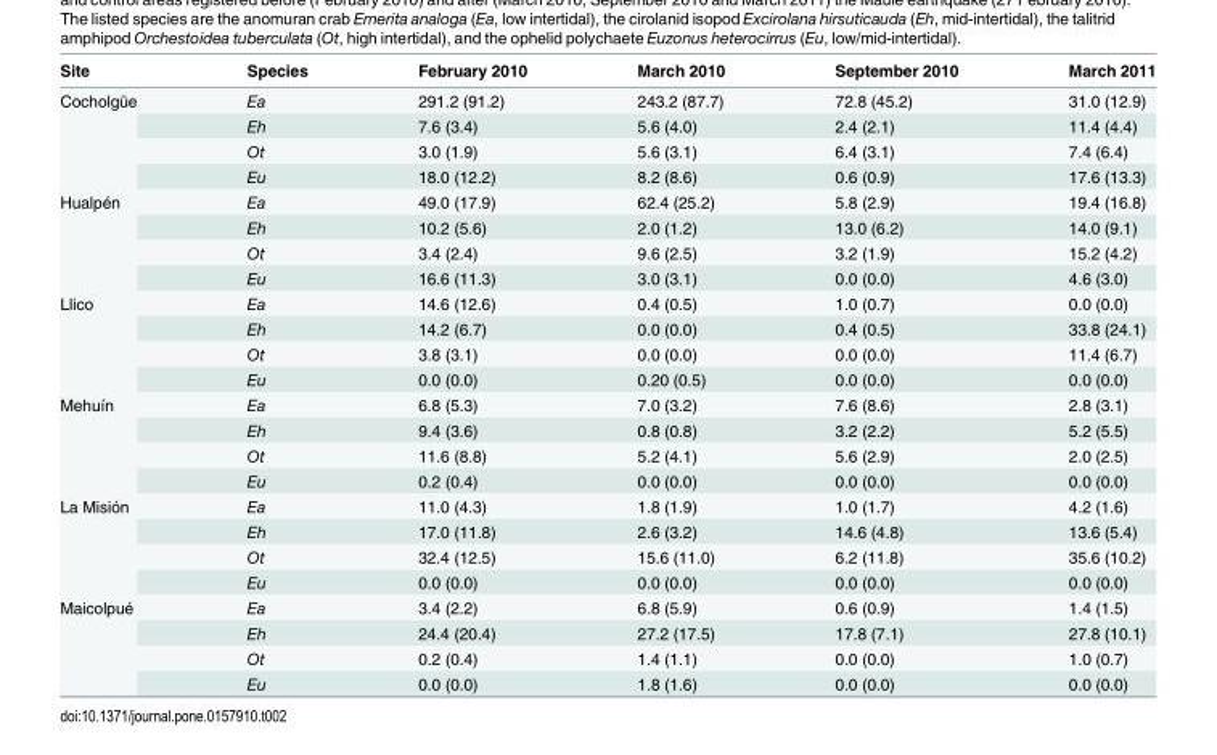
<table><thead><tr><td>Site</td><td>Species</td><td>February 2010</td><td>March 2010</td><td>September 2010</td><td>March 2011</td></tr></thead><tbody><tr><td rowspan="4">Cocholgüe</td><td>Ea</td><td>291.2 (91.2)</td><td>243.2 (87.7)</td><td>72.8 (45.2)</td><td>31.0 (12.9)</td></tr><tr><td>Eh</td><td>7.6 (3.4)</td><td>5.6 (4.0)</td><td>2.4 (2.1)</td><td>11.4 (4.4)</td></tr><tr><td>Ot</td><td>3.0 (1.9)</td><td>5.6 (3.1)</td><td>6.4 (3.1)</td><td>7.4 (6.4)</td></tr><tr><td>Eu</td><td>18.0 (12.2)</td><td>8.2 (8.6)</td><td>0.6 (0.9)</td><td>17.6 (13.3)</td></tr><tr><td rowspan="4">Hualpén</td><td>Ea</td><td>49.0 (17.9)</td><td>62.4 (25.2)</td><td>5.8 (2.9)</td><td>19.4 (16.8)</td></tr><tr><td>Eh</td><td>10.2 (5.6)</td><td>2.0 (1.2)</td><td>13.0 (6.2)</td><td>14.0 (9.1)</td></tr><tr><td>Ot</td><td>3.4 (2.4)</td><td>9.6 (2.5)</td><td>3.2 (1.9)</td><td>15.2 (4.2)</td></tr><tr><td>Eu</td><td>16.6 (11.3)</td><td>3.0 (3.1)</td><td>0.0 (0.0)</td><td>4.6 (3.0)</td></tr><tr><td rowspan="4">Llico</td><td>Ea</td><td>14.6 (12.6)</td><td>0.4 (0.5)</td><td>1.0 (0.7)</td><td>0.0 (0.0)</td></tr><tr><td>Eh</td><td>14.2 (6.7)</td><td>0.0 (0.0)</td><td>0.4 (0.5)</td><td>33.8 (24.1)</td></tr><tr><td>Ot</td><td>3.8 (3.1)</td><td>0.0 (0.0)</td><td>0.0 (0.0)</td><td>11.4 (6.7)</td></tr><tr><td>Eu</td><td>0.0 (0.0)</td><td>0.20 (0.5)</td><td>0.0 (0.0)</td><td>0.0 (0.0)</td></tr><tr><td rowspan="4">Mehuín</td><td>Ea</td><td>6.8 (5.3)</td><td>7.0 (3.2)</td><td>7.6 (8.6)</td><td>2.8 (3.1)</td></tr><tr><td>Eh</td><td>9.4 (3.6)</td><td>0.8 (0.8)</td><td>3.2 (2.2)</td><td>5.2 (5.5)</td></tr><tr><td>Ot</td><td>11.6 (8.8)</td><td>5.2 (4.1)</td><td>5.6 (2.9)</td><td>2.0 (2.5)</td></tr><tr><td>Eu</td><td>0.2 (0.4)</td><td>0.0 (0.0)</td><td>0.0 (0.0)</td><td>0.0 (0.0)</td></tr><tr><td rowspan="4">La Misión</td><td>Ea</td><td>11.0 (4.3)</td><td>1.8 (1.9)</td><td>1.0 (1.7)</td><td>4.2 (1.6)</td></tr><tr><td>Eh</td><td>17.0 (11.8)</td><td>2.6 (3.2)</td><td>14.6 (4.8)</td><td>13.6 (5.4)</td></tr><tr><td>Ot</td><td>32.4 (12.5)</td><td>15.6 (11.0)</td><td>6.2 (11.8)</td><td>35.6 (10.2)</td></tr><tr><td>Eu</td><td>0.0 (0.0)</td><td>0.0 (0.0)</td><td>0.0 (0.0)</td><td>0.0 (0.0)</td></tr><tr><td rowspan="4">Maicolpué</td><td>Ea</td><td>3.4 (2.2)</td><td>6.8 (5.9)</td><td>0.6 (0.9)</td><td>1.4 (1.5)</td></tr><tr><td>Eh</td><td>24.4 (20.4)</td><td>27.2 (17.5)</td><td>17.8 (7.1)</td><td>27.8 (10.1)</td></tr><tr><td>Ot</td><td>0.2 (0.4)</td><td>1.4 (1.1)</td><td>0.0 (0.0)</td><td>1.0 (0.7)</td></tr><tr><td>Eu</td><td>0.0 (0.0)</td><td>1.8 (1.6)</td><td>0.0 (0.0)</td><td>0.0 (0.0)</td></tr></tbody></table>